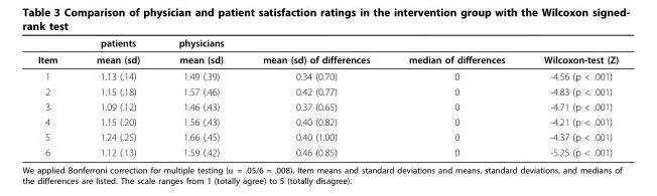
<table><thead><tr><td></td><td>patients</td><td>physicians</td><td></td><td></td><td></td></tr></thead><tbody><tr><td>Item</td><td>mean (sd)</td><td>mean (sd)</td><td>mean (sd) of differences</td><td>median of differences</td><td>Wilcoxon-test (Z)</td></tr><tr><td>1</td><td>1.13 (.14)</td><td>1.49 (.39)</td><td>0.34 (0.70)</td><td>0</td><td>-4.56 (p &lt; .001)</td></tr><tr><td>2</td><td>1.15 (.18)</td><td>1.57 (.46)</td><td>0.42 (0.77)</td><td>0</td><td>-4.83 (p &lt; .001)</td></tr><tr><td>3</td><td>1.09 (.12)</td><td>1.46 (.43)</td><td>0.37 (0.65)</td><td>0</td><td>-4.71 (p &lt; .001)</td></tr><tr><td>4</td><td>1.15 (.20)</td><td>1.56 (.43)</td><td>0.40 (0.82)</td><td>0</td><td>-4.21 (p &lt; .001)</td></tr><tr><td>5</td><td>1.24 (.25)</td><td>1.66 (.45)</td><td>0.40 (1.00)</td><td>0</td><td>-4.37 (p &lt; .001)</td></tr><tr><td>6</td><td>1.12 (.13)</td><td>1.59 (.42)</td><td>0.46 (0.85)</td><td>0</td><td>-5.25 (p &lt; .001)</td></tr></tbody></table>